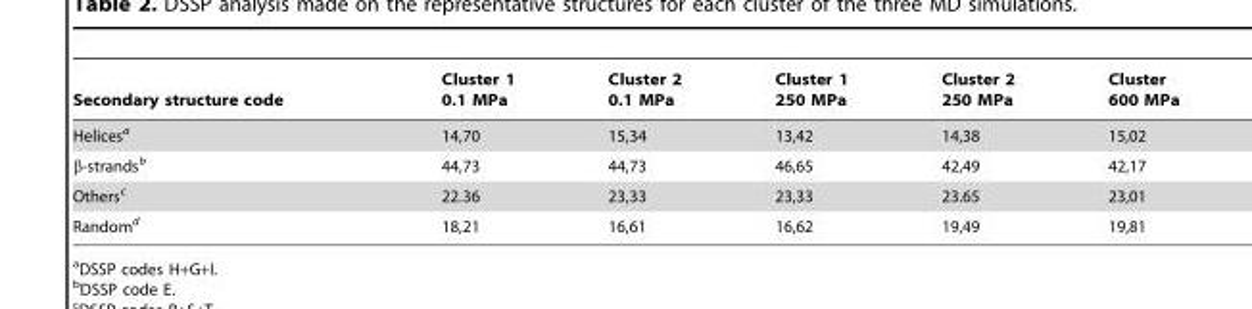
<table><thead><tr><td>Secondary structure code</td><td>Cluster 1 0.1 MPa</td><td>Cluster 2 0.1 MPa</td><td>Cluster 1 250 MPa</td><td>Cluster 2 250 MPa</td><td>Cluster 600 MPa</td></tr></thead><tbody><tr><td>Helices<sup>a</sup></td><td>14,70</td><td>15,34</td><td>13,42</td><td>14,38</td><td>15,02</td></tr><tr><td>β-strands<sup>b</sup></td><td>44,73</td><td>44,73</td><td>46,65</td><td>42,49</td><td>42,17</td></tr><tr><td>Others<sup>c</sup></td><td>22.36</td><td>23,33</td><td>23,33</td><td>23.65</td><td>23,01</td></tr><tr><td>Random<sup>d</sup></td><td>18,21</td><td>16,61</td><td>16,62</td><td>19,49</td><td>19,81</td></tr></tbody></table>